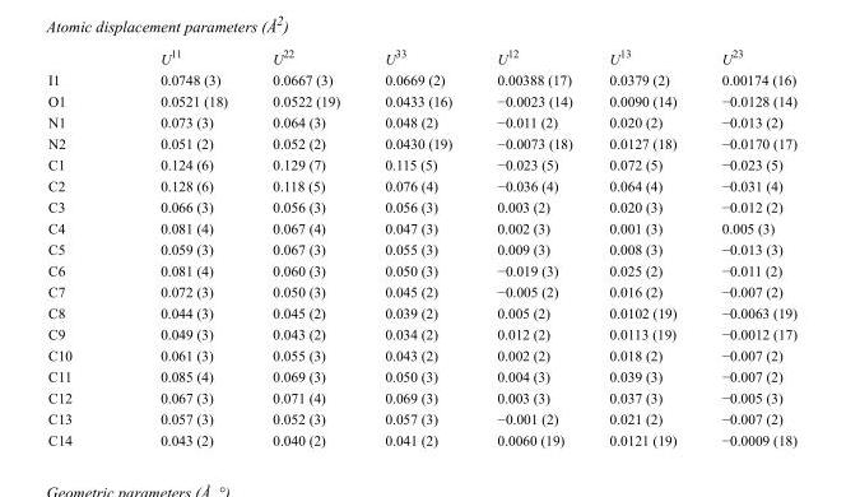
<table><thead><tr><td></td><td>U<sup>11</sup></td><td>U<sup>22</sup></td><td>U<sup>33</sup></td><td>U<sup>12</sup></td><td>U<sup>13</sup></td><td>U<sup>23</sup></td></tr></thead><tbody><tr><td>I1</td><td>0.0748 (3)</td><td>0.0667 (3)</td><td>0.0669 (2)</td><td>0.00388 (17)</td><td>0.0379 (2)</td><td>0.00174 (16)</td></tr><tr><td>O1</td><td>0.0521 (18)</td><td>0.0522 (19)</td><td>0.0433 (16)</td><td>−0.0023 (14)</td><td>0.0090 (14)</td><td>−0.0128 (14)</td></tr><tr><td>N1</td><td>0.073 (3)</td><td>0.064 (3)</td><td>0.048 (2)</td><td>−0.011 (2)</td><td>0.020 (2)</td><td>−0.013 (2)</td></tr><tr><td>N2</td><td>0.051 (2)</td><td>0.052 (2)</td><td>0.0430 (19)</td><td>−0.0073 (18)</td><td>0.0127 (18)</td><td>−0.0170 (17)</td></tr><tr><td>C1</td><td>0.124 (6)</td><td>0.129 (7)</td><td>0.115 (5)</td><td>−0.023 (5)</td><td>0.072 (5)</td><td>−0.023 (5)</td></tr><tr><td>C2</td><td>0.128 (6)</td><td>0.118 (5)</td><td>0.076 (4)</td><td>−0.036 (4)</td><td>0.064 (4)</td><td>−0.031 (4)</td></tr><tr><td>C3</td><td>0.066 (3)</td><td>0.056 (3)</td><td>0.056 (3)</td><td>0.003 (2)</td><td>0.020 (3)</td><td>−0.012 (2)</td></tr><tr><td>C4</td><td>0.081 (4)</td><td>0.067 (4)</td><td>0.047 (3)</td><td>0.002 (3)</td><td>0.001 (3)</td><td>0.005 (3)</td></tr><tr><td>C5</td><td>0.059 (3)</td><td>0.067 (3)</td><td>0.055 (3)</td><td>0.009 (3)</td><td>0.008 (3)</td><td>−0.013 (3)</td></tr><tr><td>C6</td><td>0.081 (4)</td><td>0.060 (3)</td><td>0.050 (3)</td><td>−0.019 (3)</td><td>0.025 (2)</td><td>−0.011 (2)</td></tr><tr><td>C7</td><td>0.072 (3)</td><td>0.050 (3)</td><td>0.045 (2)</td><td>−0.005 (2)</td><td>0.016 (2)</td><td>−0.007 (2)</td></tr><tr><td>C8</td><td>0.044 (3)</td><td>0.045 (2)</td><td>0.039 (2)</td><td>0.005 (2)</td><td>0.0102 (19)</td><td>−0.0063 (19)</td></tr><tr><td>C9</td><td>0.049 (3)</td><td>0.043 (2)</td><td>0.034 (2)</td><td>0.012 (2)</td><td>0.0113 (19)</td><td>−0.0012 (17)</td></tr><tr><td>C10</td><td>0.061 (3)</td><td>0.055 (3)</td><td>0.043 (2)</td><td>0.002 (2)</td><td>0.018 (2)</td><td>−0.007 (2)</td></tr><tr><td>C11</td><td>0.085 (4)</td><td>0.069 (3)</td><td>0.050 (3)</td><td>0.004 (3)</td><td>0.039 (3)</td><td>−0.007 (2)</td></tr><tr><td>C12</td><td>0.067 (3)</td><td>0.071 (4)</td><td>0.069 (3)</td><td>0.003 (3)</td><td>0.037 (3)</td><td>−0.005 (3)</td></tr><tr><td>C13</td><td>0.057 (3)</td><td>0.052 (3)</td><td>0.057 (3)</td><td>−0.001 (2)</td><td>0.021 (2)</td><td>−0.007 (2)</td></tr><tr><td>C14</td><td>0.043 (2)</td><td>0.040 (2)</td><td>0.041 (2)</td><td>0.0060 (19)</td><td>0.0121 (19)</td><td>−0.0009 (18)</td></tr></tbody></table>